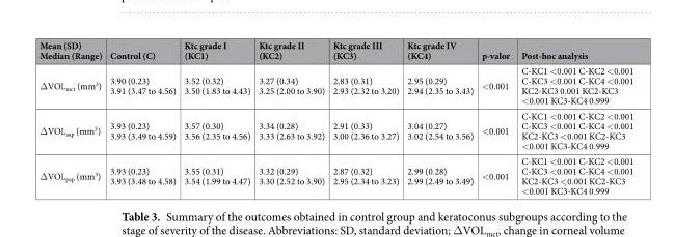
<table><thead><tr><td>Mean (SD) Median (Range)</td><td>Control (C)</td><td>Ktc grade I (KC1)</td><td>Ktc grade II (KC2)</td><td>Ktc grade III (KC3)</td><td>Ktc grade IV (KC4)</td><td>p-valor</td><td>Post-hoc analysis</td></tr></thead><tbody><tr><td>ΔVOL<sub>mct</sub> (mm<sup>3</sup>)</td><td>3.90 (0.23) 3.91 (3.47 to 4.56)</td><td>3.52 (0.32) 3.50 (1.83 to 4.43)</td><td>3.27 (0.34) 3.25 (2.00 to 3.90)</td><td>2.83 (0.31) 2.93 (2.32 to 3.20)</td><td>2.95 (0.29) 2.94 (2.35 to 3.43)</td><td>&lt;0.001</td><td>C-KC1 &lt;0.001 C-KC2 &lt;0.001 C-KC3 &lt;0.001 C-KC4 &lt;0.001 KC2-KC3 0.001 KC2-KC3 &lt;0.001 KC3-KC4 0.999</td></tr><tr><td>ΔVOL<sub>aap</sub> (mm<sup>3</sup>)</td><td>3.93 (0.23) 3.93 (3.49 to 4.59)</td><td>3.57 (0.30) 3.56 (2.35 to 4.56)</td><td>3.34 (0.28) 3.33 (2.63 to 3.92)</td><td>2.91 (0.33) 3.00 (2.36 to 3.27)</td><td>3.04 (0.27) 3.02 (2.54 to 3.56)</td><td>&lt;0.001</td><td>C-KC1 &lt;0.001 C-KC2 &lt;0.001 C-KC3 &lt;0.001 C-KC4 &lt;0.001 KC2-KC3 &lt;0.001 KC2-KC3 &lt;0.001 KC3-KC4 0.999</td></tr><tr><td>ΔVOL<sub>pap</sub> (mm<sup>3</sup>)</td><td>3.93 (0.23) 3.93 (3.48 to 4.58)</td><td>3.55 (0.31) 3.54 (1.99 to 4.47)</td><td>3.32 (0.29) 3.30 (2.52 to 3.90)</td><td>2.87 (0.32) 2.95 (2.34 to 3.23)</td><td>2.99 (0.28) 2.99 (2.49 to 3.49)</td><td>&lt;0.001</td><td>C-KC1 &lt;0.001 C-KC2 &lt;0.001 C-KC3 &lt;0.001 C-KC4 &lt;0.001 KC2-KC3 &lt;0.001 KC2-KC3 &lt;0.001 KC3-KC4 0.999</td></tr></tbody></table>